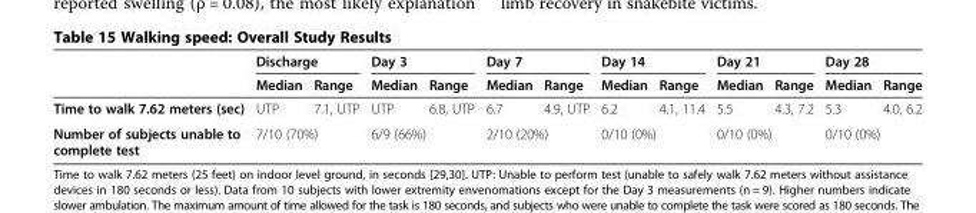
<table><thead><tr><td rowspan="2"></td><td colspan="2">Discharge</td><td colspan="2">Day 3</td><td colspan="2">Day 7</td><td colspan="2">Day 14</td><td colspan="2">Day 21</td><td colspan="2">Day 28</td></tr><tr><td>Median</td><td>Range</td><td>Median</td><td>Range</td><td>Median</td><td>Range</td><td>Median</td><td>Range</td><td>Median</td><td>Range</td><td>Median</td><td>Range</td></tr></thead><tbody><tr><td>Time to walk 7.62 meters (sec)</td><td>UTP</td><td>7.1, UTP</td><td>UTP</td><td>6.8, UTP</td><td>6.7</td><td>4.9, UTP</td><td>6.2</td><td>4.1, 11.4</td><td>5.5</td><td>4.3, 7.2</td><td>5.3</td><td>4.0, 6.2</td></tr><tr><td>Number of subjects unable to complete test</td><td colspan="2">7/10 (70%)</td><td colspan="2">6/9 (66%)</td><td colspan="2">2/10 (20%)</td><td colspan="2">0/10 (0%)</td><td colspan="2">0/10 (0%)</td><td colspan="2">0/10 (0%)</td></tr></tbody></table>